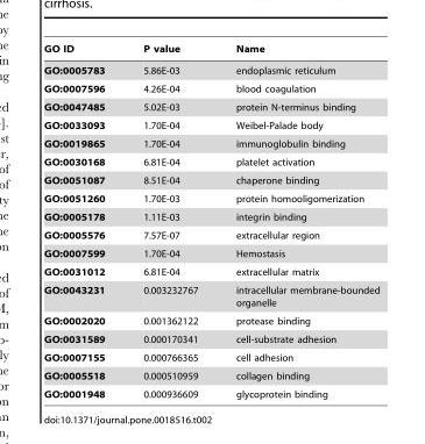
<table><thead><tr><td>GO ID</td><td>P value</td><td>Name</td></tr></thead><tbody><tr><td>GO:0005783</td><td>5.86E-03</td><td>endoplasmic reticulum</td></tr><tr><td>GO:0007596</td><td>4.26E-04</td><td>blood coagulation</td></tr><tr><td>GO:0047485</td><td>5.02E-03</td><td>protein N-terminus binding</td></tr><tr><td>GO:0033093</td><td>1.70E-04</td><td>Weibel-Palade body</td></tr><tr><td>GO:0019865</td><td>1.70E-04</td><td>immunoglobulin binding</td></tr><tr><td>GO:0030168</td><td>6.81E-04</td><td>platelet activation</td></tr><tr><td>GO:0051087</td><td>8.51E-04</td><td>chaperone binding</td></tr><tr><td>GO:0051260</td><td>1.70E-03</td><td>protein homooligomerization</td></tr><tr><td>GO:0005178</td><td>1.11E-03</td><td>integrin binding</td></tr><tr><td>GO:0005576</td><td>7.57E-07</td><td>extracellular region</td></tr><tr><td>GO:0007599</td><td>1.70E-04</td><td>Hemostasis</td></tr><tr><td>GO:0031012</td><td>6.81E-04</td><td>extracellular matrix</td></tr><tr><td>GO:0043231</td><td>0.003232767</td><td>intracellular membrane-bounded organelle</td></tr><tr><td>GO:0002020</td><td>0.001362122</td><td>protease binding</td></tr><tr><td>GO:0031589</td><td>0.000170341</td><td>cell-substrate adhesion</td></tr><tr><td>GO:0007155</td><td>0.000766365</td><td>cell adhesion</td></tr><tr><td>GO:0005518</td><td>0.000510959</td><td>collagen binding</td></tr><tr><td>GO:0001948</td><td>0.000936609</td><td>glycoprotein binding</td></tr></tbody></table>